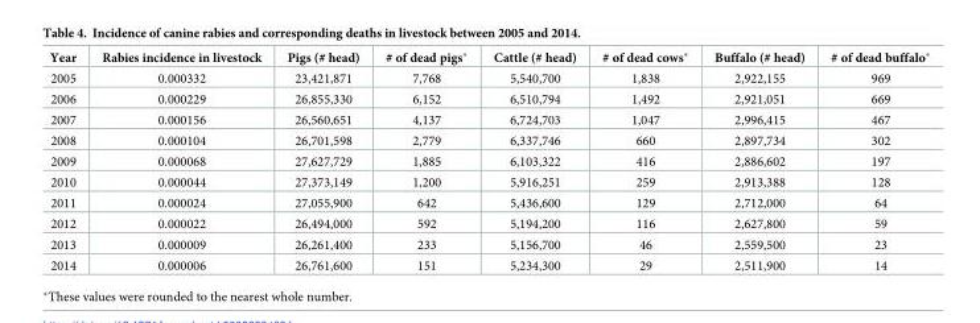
<table><thead><tr><td>Year</td><td>Rabies incidence in livestock</td><td>Pigs (# head)</td><td># of dead pigs*</td><td>Cattle (# head)</td><td># of dead cows*</td><td>Buffalo (# head)</td><td># of dead buffalo*</td></tr></thead><tbody><tr><td>2005</td><td>0.000332</td><td>23,421,871</td><td>7,768</td><td>5,540,700</td><td>1,838</td><td>2,922,155</td><td>969</td></tr><tr><td>2006</td><td>0.000229</td><td>26,855,330</td><td>6,152</td><td>6,510,794</td><td>1,492</td><td>2,921,051</td><td>669</td></tr><tr><td>2007</td><td>0.000156</td><td>26,560,651</td><td>4,137</td><td>6,724,703</td><td>1,047</td><td>2,996,415</td><td>467</td></tr><tr><td>2008</td><td>0.000104</td><td>26,701,598</td><td>2,779</td><td>6,337,746</td><td>660</td><td>2,897,734</td><td>302</td></tr><tr><td>2009</td><td>0.000068</td><td>27,627,729</td><td>1,885</td><td>6,103,322</td><td>416</td><td>2,886,602</td><td>197</td></tr><tr><td>2010</td><td>0.000044</td><td>27,373,149</td><td>1,200</td><td>5,916,251</td><td>259</td><td>2,913,388</td><td>128</td></tr><tr><td>2011</td><td>0.000024</td><td>27,055,900</td><td>642</td><td>5,436,600</td><td>129</td><td>2,712,000</td><td>64</td></tr><tr><td>2012</td><td>0.000022</td><td>26,494,000</td><td>592</td><td>5,194,200</td><td>116</td><td>2,627,800</td><td>59</td></tr><tr><td>2013</td><td>0.000009</td><td>26,261,400</td><td>233</td><td>5,156,700</td><td>46</td><td>2,559,500</td><td>23</td></tr><tr><td>2014</td><td>0.000006</td><td>26,761,600</td><td>151</td><td>5,234,300</td><td>29</td><td>2,511,900</td><td>14</td></tr></tbody></table>